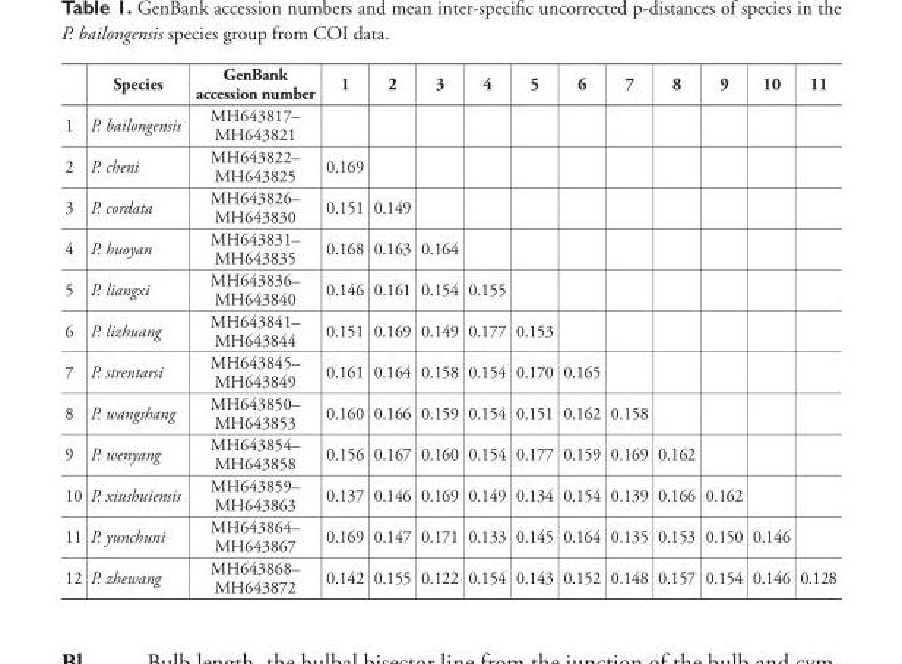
<table><thead><tr><td></td><td>Species</td><td>GenBank accession number</td><td>1</td><td>2</td><td>3</td><td>4</td><td>5</td><td>6</td><td>7</td><td>8</td><td>9</td><td>10</td><td>11</td></tr></thead><tbody><tr><td>1</td><td>P. bailongensis</td><td>MH643817– MH643821</td><td></td><td></td><td></td><td></td><td></td><td></td><td></td><td></td><td></td><td></td><td></td></tr><tr><td>2</td><td>P. cheni</td><td>MH643822– MH643825</td><td>0.169</td><td></td><td></td><td></td><td></td><td></td><td></td><td></td><td></td><td></td><td></td></tr><tr><td>3</td><td>P. cordata</td><td>MH643826– MH643830</td><td>0.151</td><td>0.149</td><td></td><td></td><td></td><td></td><td></td><td></td><td></td><td></td><td></td></tr><tr><td>4</td><td>P. huoyan</td><td>MH643831– MH643835</td><td>0.168</td><td>0.163</td><td>0.164</td><td></td><td></td><td></td><td></td><td></td><td></td><td></td><td></td></tr><tr><td>5</td><td>P. liangxi</td><td>MH643836– MH643840</td><td>0.146</td><td>0.161</td><td>0.154</td><td>0.155</td><td></td><td></td><td></td><td></td><td></td><td></td><td></td></tr><tr><td>6</td><td>P. lizhuang</td><td>MH643841– MH643844</td><td>0.151</td><td>0.169</td><td>0.149</td><td>0.177</td><td>0.153</td><td></td><td></td><td></td><td></td><td></td><td></td></tr><tr><td>7</td><td>P. strentarsi</td><td>MH643845– MH643849</td><td>0.161</td><td>0.164</td><td>0.158</td><td>0.154</td><td>0.170</td><td>0.165</td><td></td><td></td><td></td><td></td><td></td></tr><tr><td>8</td><td>P. wangshang</td><td>MH643850– MH643853</td><td>0.160</td><td>0.166</td><td>0.159</td><td>0.154</td><td>0.151</td><td>0.162</td><td>0.158</td><td></td><td></td><td></td><td></td></tr><tr><td>9</td><td>P. wenyang</td><td>MH643854– MH643858</td><td>0.156</td><td>0.167</td><td>0.160</td><td>0.154</td><td>0.177</td><td>0.159</td><td>0.169</td><td>0.162</td><td></td><td></td><td></td></tr><tr><td>10</td><td>P. xiushuiensis</td><td>MH643859– MH643863</td><td>0.137</td><td>0.146</td><td>0.169</td><td>0.149</td><td>0.134</td><td>0.154</td><td>0.139</td><td>0.166</td><td>0.162</td><td></td><td></td></tr><tr><td>11</td><td>P. yunchuni</td><td>MH643864– MH643867</td><td>0.169</td><td>0.147</td><td>0.171</td><td>0.133</td><td>0.145</td><td>0.164</td><td>0.135</td><td>0.153</td><td>0.150</td><td>0.146</td><td></td></tr><tr><td>12</td><td>P. zhewang</td><td>MH643868– MH643872</td><td>0.142</td><td>0.155</td><td>0.122</td><td>0.154</td><td>0.143</td><td>0.152</td><td>0.148</td><td>0.157</td><td>0.154</td><td>0.146</td><td>0.128</td></tr></tbody></table>